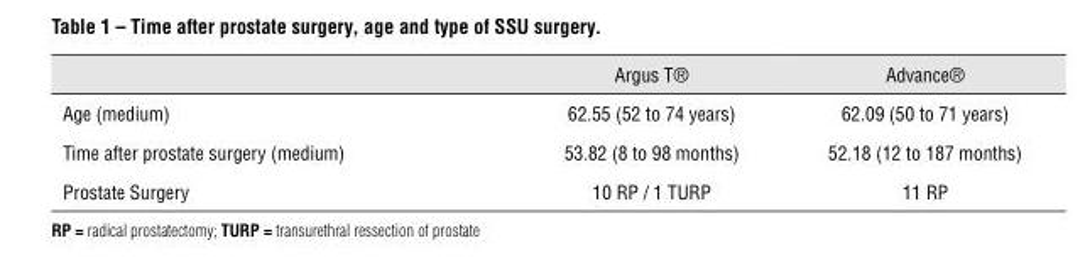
<table><thead><tr><td></td><td>Argus T®</td><td>Advance®</td></tr></thead><tbody><tr><td>Age (medium)</td><td>62.55 (52 to 74 years)</td><td>62.09 (50 to 71 years)</td></tr><tr><td>Time after prostate surgery (medium)</td><td>53.82 (8 to 98 months)</td><td>52.18 (12 to 187 months)</td></tr><tr><td>Prostate Surgery</td><td>10 RP / 1 TURP</td><td>11 RP</td></tr></tbody></table>